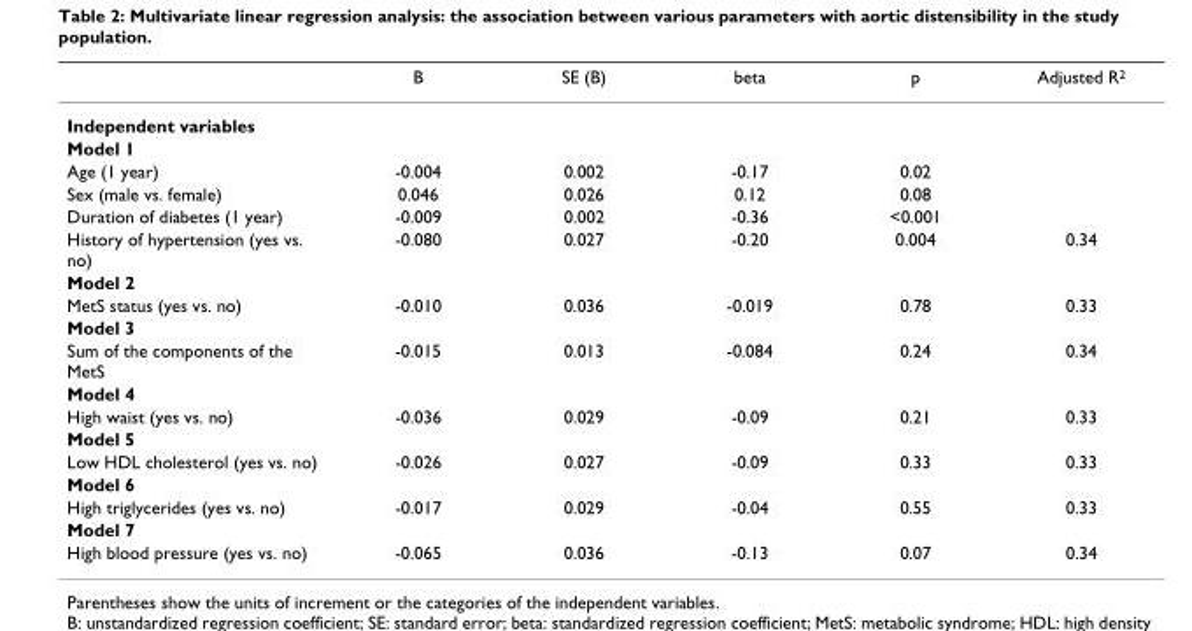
<table><thead><tr><td></td><td>B</td><td>SE (B)</td><td>beta</td><td>p</td><td>Adjusted R<sup>2</sup></td></tr></thead><tbody><tr><td colspan="6">Independent variables</td></tr><tr><td colspan="6">Model 1</td></tr><tr><td>Age (1 year)</td><td>-0.004</td><td>0.002</td><td>-0.17</td><td>0.02</td><td></td></tr><tr><td>Sex (male vs. female)</td><td>0.046</td><td>0.026</td><td>0.12</td><td>0.08</td><td></td></tr><tr><td>Duration of diabetes (1 year)</td><td>-0.009</td><td>0.002</td><td>-0.36</td><td>&lt;0.001</td><td></td></tr><tr><td>History of hypertension (yes vs. no)</td><td>-0.080</td><td>0.027</td><td>-0.20</td><td>0.004</td><td>0.34</td></tr><tr><td colspan="6">Model 2</td></tr><tr><td>MetS status (yes vs. no)</td><td>-0.010</td><td>0.036</td><td>-0.019</td><td>0.78</td><td>0.33</td></tr><tr><td colspan="6">Model 3</td></tr><tr><td>Sum of the components of the MetS</td><td>-0.015</td><td>0.013</td><td>-0.084</td><td>0.24</td><td>0.34</td></tr><tr><td colspan="6">Model 4</td></tr><tr><td>High waist (yes vs. no)</td><td>-0.036</td><td>0.029</td><td>-0.09</td><td>0.21</td><td>0.33</td></tr><tr><td colspan="6">Model 5</td></tr><tr><td>Low HDL cholesterol (yes vs. no)</td><td>-0.026</td><td>0.027</td><td>-0.09</td><td>0.33</td><td>0.33</td></tr><tr><td colspan="6">Model 6</td></tr><tr><td>High triglycerides (yes vs. no)</td><td>-0.017</td><td>0.029</td><td>-0.04</td><td>0.55</td><td>0.33</td></tr><tr><td colspan="6">Model 7</td></tr><tr><td>High blood pressure (yes vs. no)</td><td>-0.065</td><td>0.036</td><td>-0.13</td><td>0.07</td><td>0.34</td></tr></tbody></table>